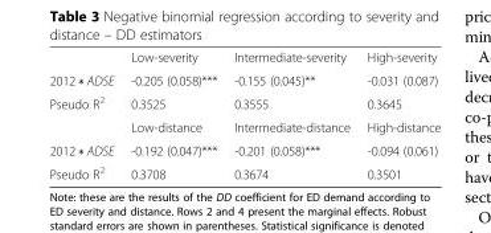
<table><thead><tr><td></td><td>Low-severity</td><td>Intermediate-severity</td><td>High-severity</td></tr></thead><tbody><tr><td>2012 ∗ ADSE</td><td>-0.205 (0.058)***</td><td>-0.155 (0.045)**</td><td>-0.031 (0.087)</td></tr><tr><td rowspan="2">Pseudo R<sup>2</sup></td><td>0.3525</td><td>0.3555</td><td>0.3645</td></tr><tr><td>Low-distance</td><td>Intermediate-distance</td><td>High-distance</td></tr><tr><td>2012 ∗ ADSE</td><td>-0.192 (0.047)***</td><td>-0.201 (0.058)***</td><td>-0.094 (0.061)</td></tr><tr><td>Pseudo R<sup>2</sup></td><td>0.3708</td><td>0.3674</td><td>0.3501</td></tr></tbody></table>